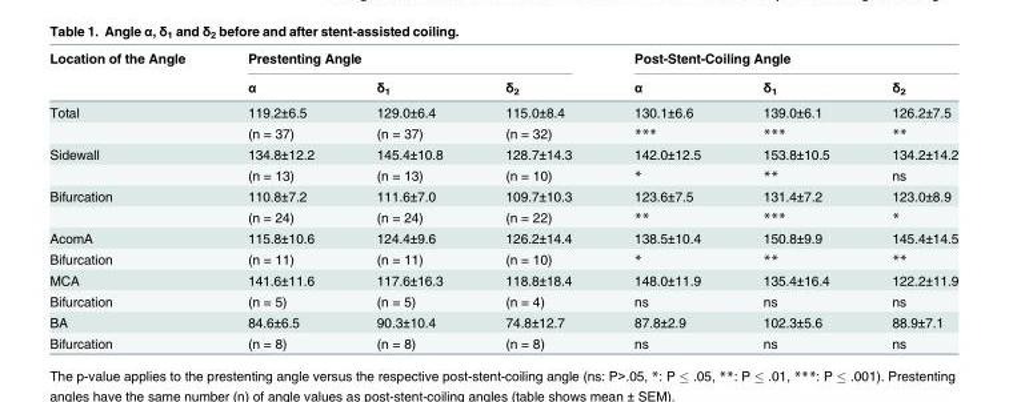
<table><thead><tr><td rowspan="2">Location of the Angle</td><td colspan="3">Prestenting Angle</td><td colspan="3">Post-Stent-Coiling Angle</td></tr><tr><td>α</td><td>δ<sub>1</sub></td><td>δ<sub>2</sub></td><td>α</td><td>δ<sub>1</sub></td><td>δ<sub>2</sub></td></tr></thead><tbody><tr><td rowspan="2">Total</td><td>119.2±6.5</td><td>129.0±6.4</td><td>115.0±8.4</td><td>130.1±6.6</td><td>139.0±6.1</td><td>126.2±7.5</td></tr><tr><td>(n = 37)</td><td>(n = 37)</td><td>(n = 32)</td><td>***</td><td>***</td><td>**</td></tr><tr><td rowspan="2">Sidewall</td><td>134.8±12.2</td><td>145.4±10.8</td><td>128.7±14.3</td><td>142.0±12.5</td><td>153.8±10.5</td><td>134.2±14.2</td></tr><tr><td>(n = 13)</td><td>(n = 13)</td><td>(n = 10)</td><td>*</td><td>**</td><td>ns</td></tr><tr><td rowspan="2">Bifurcation</td><td>110.8±7.2</td><td>111.6±7.0</td><td>109.7±10.3</td><td>123.6±7.5</td><td>131.4±7.2</td><td>123.0±8.9</td></tr><tr><td>(n = 24)</td><td>(n = 24)</td><td>(n = 22)</td><td>**</td><td>***</td><td>*</td></tr><tr><td>AcomA</td><td>115.8±10.6</td><td>124.4±9.6</td><td>126.2±14.4</td><td>138.5±10.4</td><td>150.8±9.9</td><td>145.4±14.5</td></tr><tr><td>Bifurcation</td><td>(n = 11)</td><td>(n = 11)</td><td>(n = 10)</td><td>*</td><td>**</td><td>**</td></tr><tr><td>MCA</td><td>141.6±11.6</td><td>117.6±16.3</td><td>118.8±18.4</td><td>148.0±11.9</td><td>135.4±16.4</td><td>122.2±11.9</td></tr><tr><td>Bifurcation</td><td>(n = 5)</td><td>(n = 5)</td><td>(n = 4)</td><td>ns</td><td>ns</td><td>ns</td></tr><tr><td>BA</td><td>84.6±6.5</td><td>90.3±10.4</td><td>74.8±12.7</td><td>87.8±2.9</td><td>102.3±5.6</td><td>88.9±7.1</td></tr><tr><td>Bifurcation</td><td>(n = 8)</td><td>(n = 8)</td><td>(n = 8)</td><td>ns</td><td>ns</td><td>ns</td></tr></tbody></table>